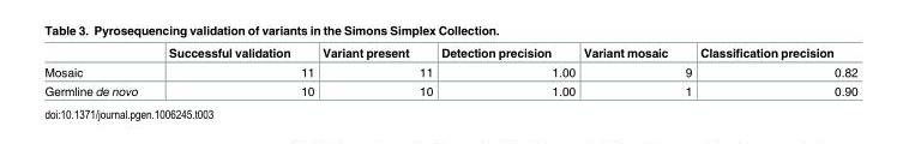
<table><thead><tr><td></td><td>Successful validation</td><td>Variant present</td><td>Detection precision</td><td>Variant mosaic</td><td>Classification precision</td></tr></thead><tbody><tr><td>Mosaic</td><td>11</td><td>11</td><td>1.00</td><td>9</td><td>0.82</td></tr><tr><td>Germline de novo</td><td>10</td><td>10</td><td>1.00</td><td>1</td><td>0.90</td></tr></tbody></table>